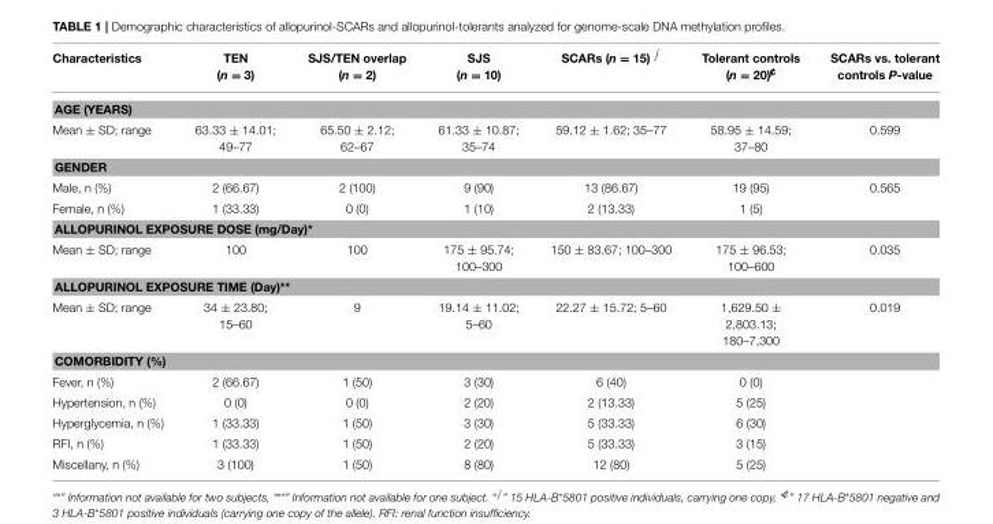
<table><thead><tr><td>Characteristics</td><td>TEN (n = 3)</td><td>SJS/TEN overlap (n = 2)</td><td>SJS (n = 10)</td><td>SCARs (n = 15)</td><td>Tolerant controls (n = 20)/c</td><td>SCARs vs. tolerant controls P-value</td></tr></thead><tbody><tr><td colspan="7">AGE (YEARS)</td></tr><tr><td>Mean ± SD; range</td><td>63.33 ± 14.01; 49–77</td><td>65.50 ± 2.12; 62–67</td><td>61.33 ± 10.87; 35–74</td><td>59.12 ± 1.62; 35–77</td><td>58.95 ± 14.59; 37–80</td><td>0.599</td></tr><tr><td colspan="7">GENDER</td></tr><tr><td>Male, n (%)</td><td>2 (66.67)</td><td>2 (100)</td><td>9 (90)</td><td>13 (86.67)</td><td>19 (95)</td><td>0.565</td></tr><tr><td>Female, n (%)</td><td>1 (33.33)</td><td>0 (0)</td><td>1 (10)</td><td>2 (13.33)</td><td>1 (5)</td><td></td></tr><tr><td colspan="7">ALLOPURINOL EXPOSURE DOSE (mg/Day)*</td></tr><tr><td>Mean ± SD; range</td><td>100</td><td>100</td><td>175 ± 95.74; 100–300</td><td>150 ± 83.67; 100–300</td><td>175 ± 96.53; 100–600</td><td>0.035</td></tr><tr><td colspan="7">ALLOPURINOL EXPOSURE TIME (Day)**</td></tr><tr><td>Mean ± SD; range</td><td>34 ± 23.80; 15–60</td><td>9</td><td>19.14 ± 11.02; 5–60</td><td>22.27 ± 15.72; 5–60</td><td>1,629.50 ± 2,803.13; 180–7,300</td><td>0.019</td></tr><tr><td colspan="7">COMORBIDITY (%)</td></tr><tr><td>Fever, n (%)</td><td>2 (66.67)</td><td>1 (50)</td><td>3 (30)</td><td>6 (40)</td><td>0 (0)</td><td></td></tr><tr><td>Hypertension, n (%)</td><td>0 (0)</td><td>0 (0)</td><td>2 (20)</td><td>2 (13.33)</td><td>5 (25)</td><td></td></tr><tr><td>Hyperglycemia, n (%)</td><td>1 (33.33)</td><td>1 (50)</td><td>3 (30)</td><td>5 (33.33)</td><td>6 (30)</td><td></td></tr><tr><td>RFI, n (%)</td><td>1 (33.33)</td><td>1 (50)</td><td>2 (20)</td><td>5 (33.33)</td><td>3 (15)</td><td></td></tr><tr><td>Miscellany, n (%)</td><td>3 (100)</td><td>1 (50)</td><td>8 (80)</td><td>12 (80)</td><td>5 (25)</td><td></td></tr></tbody></table>